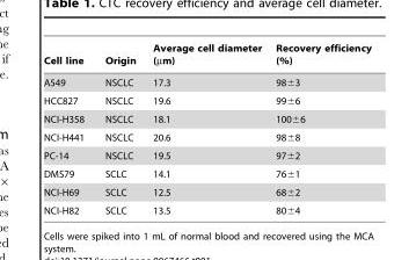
<table><thead><tr><td>Cell line</td><td>Origin</td><td>Average cell diameter (µm)</td><td>Recovery efficiency (%)</td></tr></thead><tbody><tr><td>A549</td><td>NSCLC</td><td>17.3</td><td>98±3</td></tr><tr><td>HCC827</td><td>NSCLC</td><td>19.6</td><td>99±6</td></tr><tr><td>NCI-H358</td><td>NSCLC</td><td>18.1</td><td>100±6</td></tr><tr><td>NCI-H441</td><td>NSCLC</td><td>20.6</td><td>98±8</td></tr><tr><td>PC-14</td><td>NSCLC</td><td>19.5</td><td>97±2</td></tr><tr><td>DMS79</td><td>SCLC</td><td>14.1</td><td>76±1</td></tr><tr><td>NCI-H69</td><td>SCLC</td><td>12.5</td><td>68±2</td></tr><tr><td>NCI-H82</td><td>SCLC</td><td>13.5</td><td>80±4</td></tr></tbody></table>